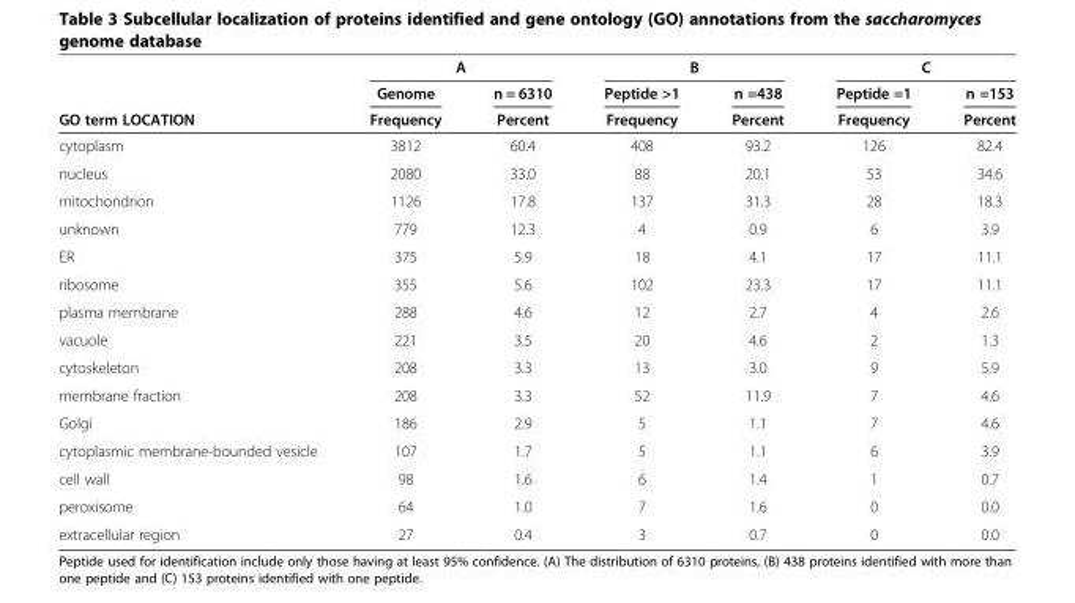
<table><thead><tr><td rowspan="3">GO term LOCATION</td><td colspan="2">A</td><td colspan="2">B</td><td colspan="2">C</td></tr><tr><td rowspan="2">Genome Frequency</td><td rowspan="2">n = 6310 Percent</td><td rowspan="2">Peptide &gt;1 Frequency</td><td rowspan="2">n =438 Percent</td><td rowspan="2">Peptide =1 Frequency</td><td rowspan="2">n =153 Percent</td></tr><tr></tr></thead><tbody><tr><td>cytoplasm</td><td>3812</td><td>60.4</td><td>408</td><td>93.2</td><td>126</td><td>82.4</td></tr><tr><td>nucleus</td><td>2080</td><td>33.0</td><td>88</td><td>20.1</td><td>53</td><td>34.6</td></tr><tr><td>mitochondrion</td><td>1126</td><td>17.8</td><td>137</td><td>31.3</td><td>28</td><td>18.3</td></tr><tr><td>unknown</td><td>779</td><td>12.3</td><td>4</td><td>0.9</td><td>6</td><td>3.9</td></tr><tr><td>ER</td><td>375</td><td>5.9</td><td>18</td><td>4.1</td><td>17</td><td>11.1</td></tr><tr><td>ribosome</td><td>355</td><td>5.6</td><td>102</td><td>23.3</td><td>17</td><td>11.1</td></tr><tr><td>plasma membrane</td><td>288</td><td>4.6</td><td>12</td><td>2.7</td><td>4</td><td>2.6</td></tr><tr><td>vacuole</td><td>221</td><td>3.5</td><td>20</td><td>4.6</td><td>2</td><td>1.3</td></tr><tr><td>cytoskeleton</td><td>208</td><td>3.3</td><td>13</td><td>3.0</td><td>9</td><td>5.9</td></tr><tr><td>membrane fraction</td><td>208</td><td>3.3</td><td>52</td><td>11.9</td><td>7</td><td>4.6</td></tr><tr><td>Golgi</td><td>186</td><td>2.9</td><td>5</td><td>1.1</td><td>7</td><td>4.6</td></tr><tr><td>cytoplasmic membrane-bounded vesicle</td><td>107</td><td>1.7</td><td>5</td><td>1.1</td><td>6</td><td>3.9</td></tr><tr><td>cell wall</td><td>98</td><td>1.6</td><td>6</td><td>1.4</td><td>1</td><td>0.7</td></tr><tr><td>peroxisome</td><td>64</td><td>1.0</td><td>7</td><td>1.6</td><td>0</td><td>0.0</td></tr><tr><td>extracellular region</td><td>27</td><td>0.4</td><td>3</td><td>0.7</td><td>0</td><td>0.0</td></tr></tbody></table>